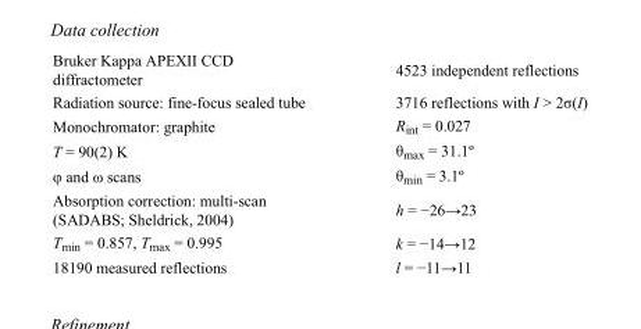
<table><tbody><tr><td>Bruker Kappa APEXII CCD diffractometer</td><td>4523 independent reflections</td></tr><tr><td>Radiation source: fine-focus sealed tube</td><td>3716 reflections with I &gt; 2σ(I)</td></tr><tr><td>Monochromator: graphite</td><td>R<sub>int</sub> = 0.027</td></tr><tr><td>T = 90(2) K</td><td>θ<sub>max</sub> = 31.1º</td></tr><tr><td>φ and ω scans</td><td>θ<sub>min</sub> = 3.1º</td></tr><tr><td>Absorption correction: multi-scan (SADABS; Sheldrick, 2004)</td><td>h = −26→23</td></tr><tr><td>T<sub>min</sub> = 0.857, T<sub>max</sub> = 0.995</td><td>k = −14→12</td></tr><tr><td>18190 measured reflections</td><td>l = −11→11</td></tr></tbody></table>